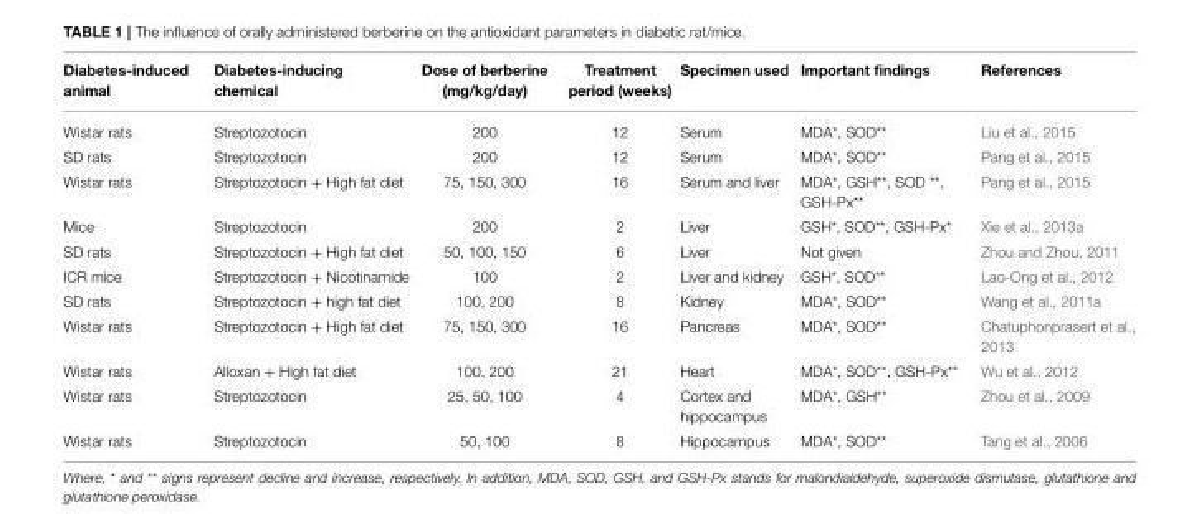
<table><thead><tr><td>Diabetes-induced animal</td><td>Diabetes-inducing chemical</td><td>Dose of berberine (mg/kg/day)</td><td>Treatment period (weeks)</td><td>Specimen used</td><td>Important findings</td><td>References</td></tr></thead><tbody><tr><td>Wistar rats</td><td>Streptozotocin</td><td>200</td><td>12</td><td>Serum</td><td>MDA*, SOD**</td><td>Liu et al., 2015</td></tr><tr><td>SD rats</td><td>Streptozotocin</td><td>200</td><td>12</td><td>Serum</td><td>MDA*, SOD**</td><td>Pang et al., 2015</td></tr><tr><td>Wistar rats</td><td>Streptozotocin + High fat diet</td><td>75, 150, 300</td><td>16</td><td>Serum and liver</td><td>MDA*, GSH**, SOD **, GSH-Px**</td><td>Pang et al., 2015</td></tr><tr><td>Mice</td><td>Streptozotocin</td><td>200</td><td>2</td><td>Liver</td><td>GSH*, SOD**, GSH-Px*</td><td>Xie et al., 2013a</td></tr><tr><td>SD rats</td><td>Streptozotocin + High fat diet</td><td>50, 100, 150</td><td>6</td><td>Liver</td><td>Not given</td><td>Zhou and Zhou, 2011</td></tr><tr><td>ICR mice</td><td>Streptozotocin + Nicotinamide</td><td>100</td><td>2</td><td>Liver and kidney</td><td>GSH*, SOD**</td><td>Lao-Ong et al., 2012</td></tr><tr><td>SD rats</td><td>Streptozotocin + high fat diet</td><td>100, 200</td><td>8</td><td>Kidney</td><td>MDA*, SOD**</td><td>Wang et al., 2011a</td></tr><tr><td>Wistar rats</td><td>Streptozotocin + High fat diet</td><td>75, 150, 300</td><td>16</td><td>Pancreas</td><td>MDA*, SOD**</td><td>Chatuphonprasert et al., 2013</td></tr><tr><td>Wistar rats</td><td>Alloxan + High fat diet</td><td>100, 200</td><td>21</td><td>Heart</td><td>MDA*, SOD**, GSH-Px**</td><td>Wu et al., 2012</td></tr><tr><td>Wistar rats</td><td>Streptozotocin</td><td>25, 50, 100</td><td>4</td><td>Cortex and hippocampus</td><td>MDA*, GSH**</td><td>Zhou et al., 2009</td></tr><tr><td>Wistar rats</td><td>Streptozotocin</td><td>50, 100</td><td>8</td><td>Hippocampus</td><td>MDA*, SOD**</td><td>Tang et al., 2006</td></tr></tbody></table>